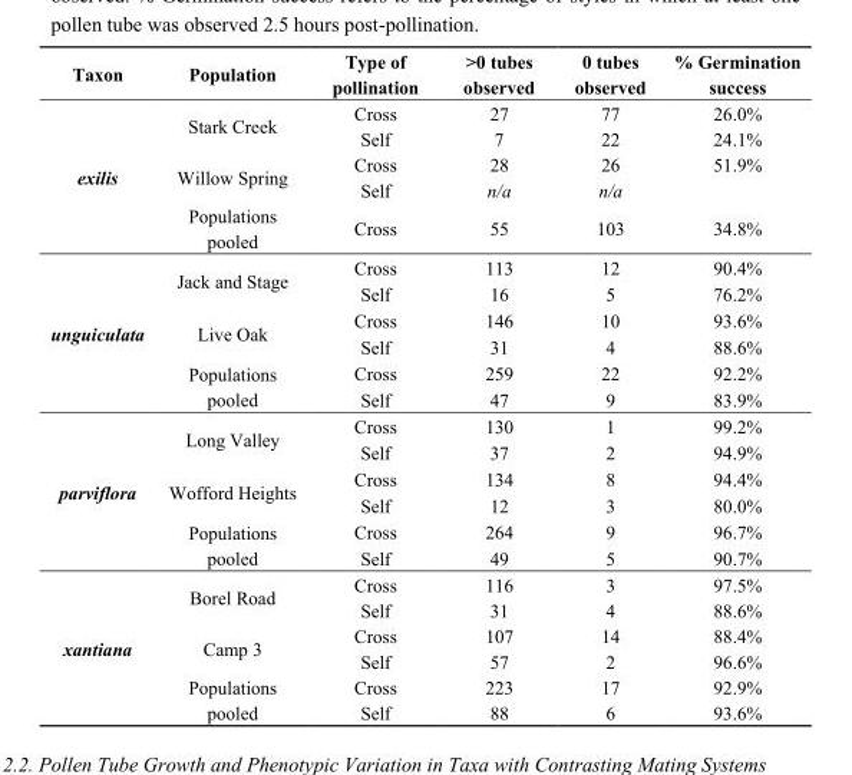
<table><thead><tr><td>Taxon</td><td>Population</td><td>Type of pollination</td><td>&gt;0 tubes observed</td><td>0 tubes observed</td><td>% Germination success</td></tr></thead><tbody><tr><td rowspan="5">exilis</td><td rowspan="2">Stark Creek</td><td>Cross</td><td>27</td><td>77</td><td>26.0%</td></tr><tr><td>Self</td><td>7</td><td>22</td><td>24.1%</td></tr><tr><td rowspan="2">Willow Spring</td><td>Cross</td><td>28</td><td>26</td><td>51.9%</td></tr><tr><td>Self</td><td>n/a</td><td>n/a</td><td></td></tr><tr><td>Populations pooled</td><td>Cross</td><td>55</td><td>103</td><td>34.8%</td></tr><tr><td rowspan="6">unguiculata</td><td rowspan="2">Jack and Stage</td><td>Cross</td><td>113</td><td>12</td><td>90.4%</td></tr><tr><td>Self</td><td>16</td><td>5</td><td>76.2%</td></tr><tr><td rowspan="2">Live Oak</td><td>Cross</td><td>146</td><td>10</td><td>93.6%</td></tr><tr><td>Self</td><td>31</td><td>4</td><td>88.6%</td></tr><tr><td rowspan="2">Populations pooled</td><td>Cross</td><td>259</td><td>22</td><td>92.2%</td></tr><tr><td>Self</td><td>47</td><td>9</td><td>83.9%</td></tr><tr><td rowspan="6">parviflora</td><td rowspan="2">Long Valley</td><td>Cross</td><td>130</td><td>1</td><td>99.2%</td></tr><tr><td>Self</td><td>37</td><td>2</td><td>94.9%</td></tr><tr><td rowspan="2">Wofford Heights</td><td>Cross</td><td>134</td><td>8</td><td>94.4%</td></tr><tr><td>Self</td><td>12</td><td>3</td><td>80.0%</td></tr><tr><td rowspan="2">Populations pooled</td><td>Cross</td><td>264</td><td>9</td><td>96.7%</td></tr><tr><td>Self</td><td>49</td><td>5</td><td>90.7%</td></tr><tr><td rowspan="6">xantiana</td><td rowspan="2">Borel Road</td><td>Cross</td><td>116</td><td>3</td><td>97.5%</td></tr><tr><td>Self</td><td>31</td><td>4</td><td>88.6%</td></tr><tr><td rowspan="2">Camp 3</td><td>Cross</td><td>107</td><td>14</td><td>88.4%</td></tr><tr><td>Self</td><td>57</td><td>2</td><td>96.6%</td></tr><tr><td rowspan="2">Populations pooled</td><td>Cross</td><td>223</td><td>17</td><td>92.9%</td></tr><tr><td>Self</td><td>88</td><td>6</td><td>93.6%</td></tr></tbody></table>